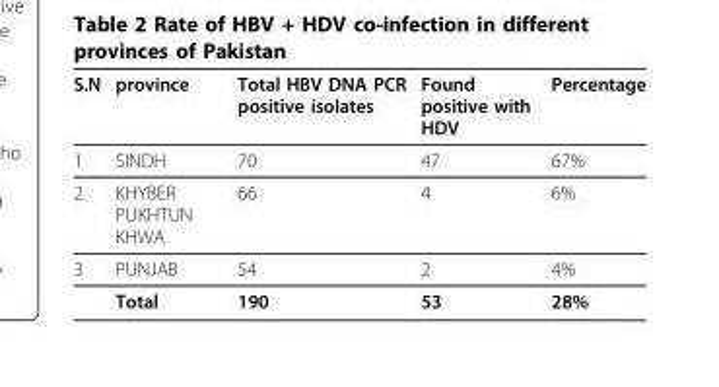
<table><thead><tr><td>S.N</td><td>province</td><td>Total HBV DNA PCR positive isolates</td><td>Found positive with HDV</td><td>Percentage</td></tr></thead><tbody><tr><td>1</td><td>SINDH</td><td>70</td><td>47</td><td>67%</td></tr><tr><td>2</td><td>KHYBER PUKHTUN KHWA</td><td>66</td><td>4</td><td>6%</td></tr><tr><td rowspan="2">3</td><td>PUNJAB</td><td>54</td><td>2</td><td>4%</td></tr><tr><td>Total</td><td>190</td><td>53</td><td>28%</td></tr></tbody></table>